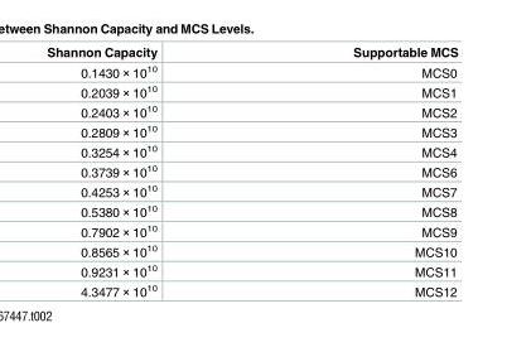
<table><thead><tr><td>Shannon Capacity</td><td>Supportable MCS</td></tr></thead><tbody><tr><td>0.1430 × 10<sup>10</sup></td><td>MCS0</td></tr><tr><td>0.2039 × 10<sup>10</sup></td><td>MCS1</td></tr><tr><td>0.2403 × 10<sup>10</sup></td><td>MCS2</td></tr><tr><td>0.2809 × 10<sup>10</sup></td><td>MCS3</td></tr><tr><td>0.3254 × 10<sup>10</sup></td><td>MCS4</td></tr><tr><td>0.3739 × 10<sup>10</sup></td><td>MCS6</td></tr><tr><td>0.4253 × 10<sup>10</sup></td><td>MCS7</td></tr><tr><td>0.5380 × 10<sup>10</sup></td><td>MCS8</td></tr><tr><td>0.7902 × 10<sup>10</sup></td><td>MCS9</td></tr><tr><td>0.8565 × 10<sup>10</sup></td><td>MCS10</td></tr><tr><td>0.9231 × 10<sup>10</sup></td><td>MCS11</td></tr><tr><td>4.3477 × 10<sup>10</sup></td><td>MCS12</td></tr></tbody></table>